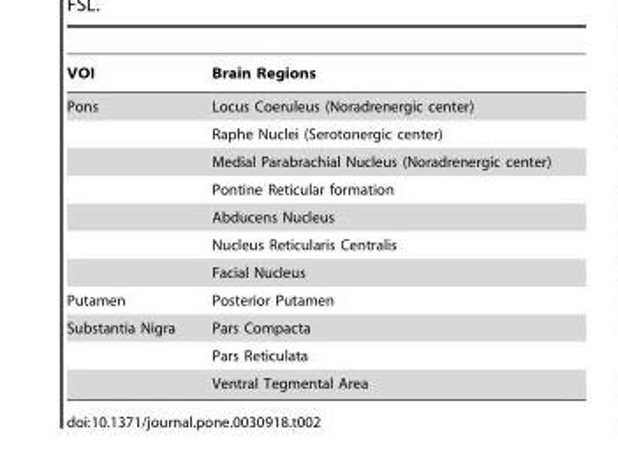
<table><thead><tr><td>VOI</td><td>Brain Regions</td></tr></thead><tbody><tr><td rowspan="7">Pons</td><td>Locus Coeruleus (Noradrenergic center)</td></tr><tr><td>Raphe Nuclei (Serotonergic center)</td></tr><tr><td>Medial Parabrachial Nucleus (Noradrenergic center)</td></tr><tr><td>Pontine Reticular formation</td></tr><tr><td>Abducens Nucleus</td></tr><tr><td>Nucleus Reticularis Centralis</td></tr><tr><td>Facial Nucleus</td></tr><tr><td>Putamen</td><td>Posterior Putamen</td></tr><tr><td rowspan="3">Substantia Nigra</td><td>Pars Compacta</td></tr><tr><td>Pars Reticulata</td></tr><tr><td>Ventral Tegmental Area</td></tr></tbody></table>